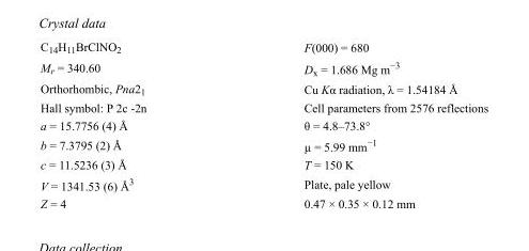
<table><tbody><tr><td>C<sub>14</sub>H<sub>11</sub>BrClNO<sub>2</sub></td><td>F(000) = 680</td></tr><tr><td>M<sub>r</sub> = 340.60</td><td>D<sub>x</sub> = 1.686 Mg m<sup>−3</sup></td></tr><tr><td>Orthorhombic, Pna2<sub>1</sub></td><td>Cu Kα radiation, λ = 1.54184 Å</td></tr><tr><td>Hall symbol: P 2c -2n</td><td>Cell parameters from 2576 reflections</td></tr><tr><td>a = 15.7756 (4) Å</td><td>θ = 4.8–73.8°</td></tr><tr><td>b = 7.3795 (2) Å</td><td>µ = 5.99 mm<sup>−1</sup></td></tr><tr><td>c = 11.5236 (3) Å</td><td>T = 150 K</td></tr><tr><td>V = 1341.53 (6) Å<sup>3</sup></td><td>Plate, pale yellow</td></tr><tr><td>Z = 4</td><td>0.47 × 0.35 × 0.12 mm</td></tr></tbody></table>